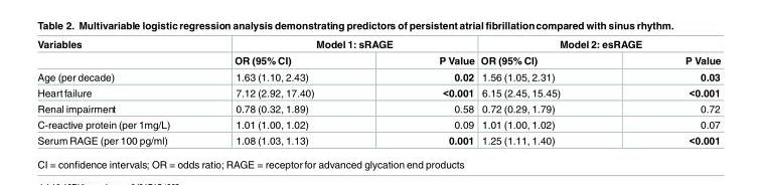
<table><thead><tr><td rowspan="2">Variables</td><td colspan="2">Model 1: sRAGE</td><td colspan="2">Model 2: esRAGE</td></tr><tr><td>OR (95% CI)</td><td>P Value</td><td>OR (95% CI)</td><td>P Value</td></tr></thead><tbody><tr><td>Age (per decade)</td><td>1.63 (1.10, 2.43)</td><td>0.02</td><td>1.56 (1.05, 2.31)</td><td>0.03</td></tr><tr><td>Heart failure</td><td>7.12 (2.92, 17.40)</td><td>&lt;0.001</td><td>6.15 (2.45, 15.45)</td><td>&lt;0.001</td></tr><tr><td>Renal impairment</td><td>0.78 (0.32, 1.89)</td><td>0.58</td><td>0.72 (0.29, 1.79)</td><td>0.72</td></tr><tr><td>C-reactive protein (per 1mg/L)</td><td>1.01 (1.00, 1.02)</td><td>0.09</td><td>1.01 (1.00, 1.02)</td><td>0.07</td></tr><tr><td>Serum RAGE (per 100 pg/ml)</td><td>1.08 (1.03, 1.13)</td><td>0.001</td><td>1.25 (1.11, 1.40)</td><td>&lt;0.001</td></tr></tbody></table>